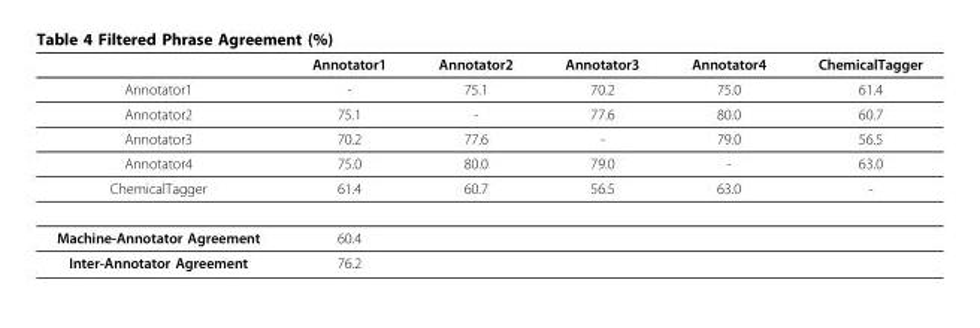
<table><thead><tr><td></td><td>Annotator1</td><td>Annotator2</td><td>Annotator3</td><td>Annotator4</td><td>ChemicalTagger</td></tr></thead><tbody><tr><td>Annotator1</td><td>-</td><td>75.1</td><td>70.2</td><td>75.0</td><td>61.4</td></tr><tr><td>Annotator2</td><td>75.1</td><td>-</td><td>77.6</td><td>80.0</td><td>60.7</td></tr><tr><td>Annotator3</td><td>70.2</td><td>77.6</td><td>-</td><td>79.0</td><td>56.5</td></tr><tr><td>Annotator4</td><td>75.0</td><td>80.0</td><td>79.0</td><td>-</td><td>63.0</td></tr><tr><td>ChemicalTagger</td><td>61.4</td><td>60.7</td><td>56.5</td><td>63.0</td><td>-</td></tr><tr><td>Machine-Annotator Agreement</td><td>60.4</td><td></td><td></td><td></td><td></td></tr><tr><td>Inter-Annotator Agreement</td><td>76.2</td><td></td><td></td><td></td><td></td></tr></tbody></table>